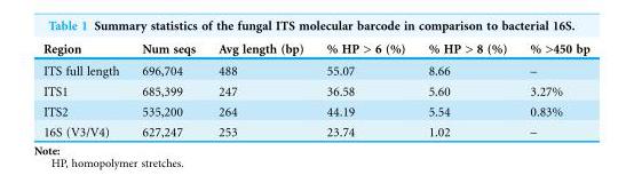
<table><thead><tr><td>Region</td><td>Num seqs</td><td>Avg length (bp)</td><td>% HP &gt; 6 (%)</td><td>% HP &gt; 8 (%)</td><td>% &gt;450 bp</td></tr></thead><tbody><tr><td>ITS full length</td><td>696,704</td><td>488</td><td>55.07</td><td>8.66</td><td>–</td></tr><tr><td>ITS1</td><td>685,399</td><td>247</td><td>36.58</td><td>5.60</td><td>3.27%</td></tr><tr><td>ITS2</td><td>535,200</td><td>264</td><td>44.19</td><td>5.54</td><td>0.83%</td></tr><tr><td>16S (V3/V4)</td><td>627,247</td><td>253</td><td>23.74</td><td>1.02</td><td>–</td></tr></tbody></table>